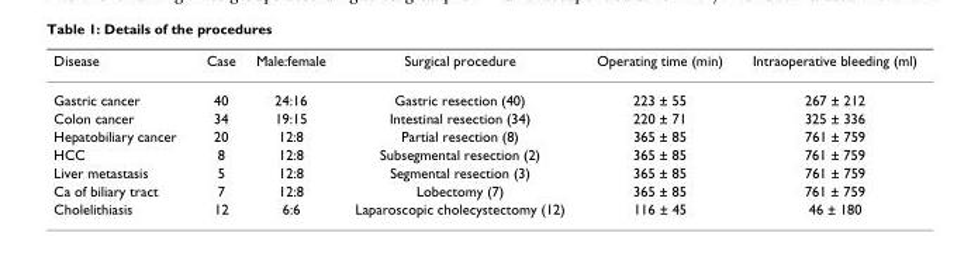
<table><thead><tr><td>Disease</td><td>Case</td><td>Male:female</td><td>Surgical procedure</td><td>Operating time (min)</td><td>Intraoperative bleeding (ml)</td></tr></thead><tbody><tr><td>Gastric cancer</td><td>40</td><td>24:16</td><td>Gastric resection (40)</td><td>223 ± 55</td><td>267 ± 212</td></tr><tr><td>Colon cancer</td><td>34</td><td>19:15</td><td>Intestinal resection (34)</td><td>220 ± 71</td><td>325 ± 336</td></tr><tr><td>Hepatobiliary cancer</td><td>20</td><td>12:8</td><td>Partial resection (8)</td><td>365 ± 85</td><td>761 ± 759</td></tr><tr><td>HCC</td><td>8</td><td>12:8</td><td>Subsegmental resection (2)</td><td>365 ± 85</td><td>761 ± 759</td></tr><tr><td>Liver metastasis</td><td>5</td><td>12:8</td><td>Segmental resection (3)</td><td>365 ± 85</td><td>761 ± 759</td></tr><tr><td>Ca of biliary tract</td><td>7</td><td>12:8</td><td>Lobectomy (7)</td><td>365 ± 85</td><td>761 ± 759</td></tr><tr><td>Cholelithiasis</td><td>12</td><td>6:6</td><td>Laparoscopic cholecystectomy (12)</td><td>116 ± 45</td><td>46 ± 180</td></tr></tbody></table>